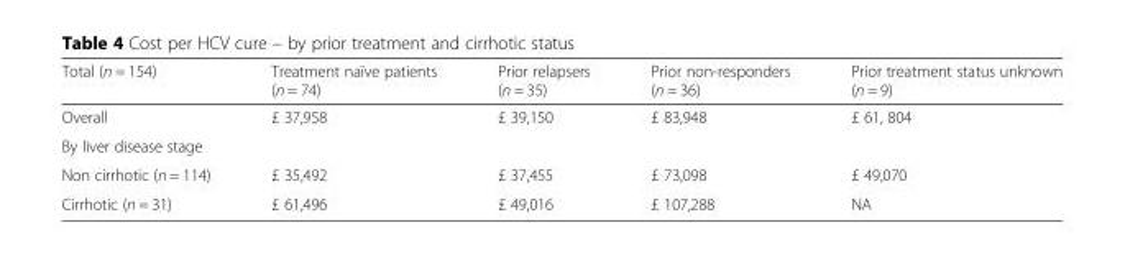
<table><thead><tr><td>Total (n = 154)</td><td>Treatment naïve patients (n = 74)</td><td>Prior relapsers (n = 35)</td><td>Prior non-responders (n = 36)</td><td>Prior treatment status unknown (n = 9)</td></tr></thead><tbody><tr><td>Overall</td><td>£ 37,958</td><td>£ 39,150</td><td>£ 83,948</td><td>£ 61, 804</td></tr><tr><td colspan="5">By liver disease stage</td></tr><tr><td>Non cirrhotic (n = 114)</td><td>£ 35,492</td><td>£ 37,455</td><td>£ 73,098</td><td>£ 49,070</td></tr><tr><td>Cirrhotic (n = 31)</td><td>£ 61,496</td><td>£ 49,016</td><td>£ 107,288</td><td>NA</td></tr></tbody></table>